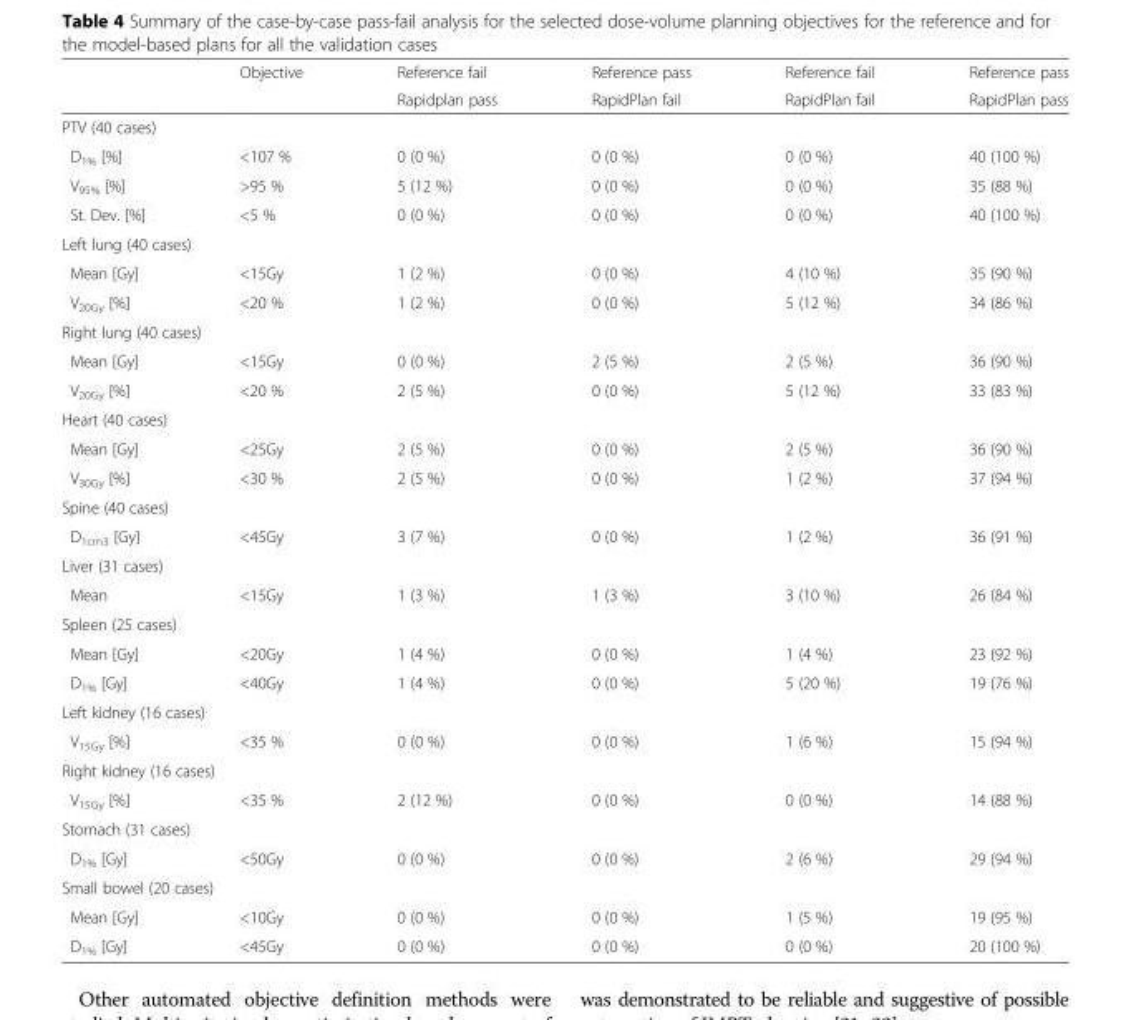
<table><thead><tr><td rowspan="2"></td><td rowspan="2">Objective</td><td rowspan="2">Reference fail Rapidplan pass</td><td rowspan="2">Reference pass RapidPlan fail</td><td rowspan="2">Reference fail RapidPlan fail</td><td rowspan="2">Reference pass RapidPlan pass</td></tr><tr></tr></thead><tbody><tr><td colspan="6">PTV (40 cases)</td></tr><tr><td>D<sub>1%</sub> [%]</td><td>&lt;107 %</td><td>0 (0 %)</td><td>0 (0 %)</td><td>0 (0 %)</td><td>40 (100 %)</td></tr><tr><td>V<sub>95%</sub> [%]</td><td>&gt;95 %</td><td>5 (12 %)</td><td>0 (0 %)</td><td>0 (0 %)</td><td>35 (88 %)</td></tr><tr><td>St. Dev. [%]</td><td>&lt;5 %</td><td>0 (0 %)</td><td>0 (0 %)</td><td>0 (0 %)</td><td>40 (100 %)</td></tr><tr><td colspan="6">Left lung (40 cases)</td></tr><tr><td>Mean [Gy]</td><td>&lt;15Gy</td><td>1 (2 %)</td><td>0 (0 %)</td><td>4 (10 %)</td><td>35 (90 %)</td></tr><tr><td>V<sub>20Gy</sub> [%]</td><td>&lt;20 %</td><td>1 (2 %)</td><td>0 (0 %)</td><td>5 (12 %)</td><td>34 (86 %)</td></tr><tr><td colspan="6">Right lung (40 cases)</td></tr><tr><td>Mean [Gy]</td><td>&lt;15Gy</td><td>0 (0 %)</td><td>2 (5 %)</td><td>2 (5 %)</td><td>36 (90 %)</td></tr><tr><td>V<sub>20Gy</sub> [%]</td><td>&lt;20 %</td><td>2 (5 %)</td><td>0 (0 %)</td><td>5 (12 %)</td><td>33 (83 %)</td></tr><tr><td colspan="6">Heart (40 cases)</td></tr><tr><td>Mean [Gy]</td><td>&lt;25Gy</td><td>2 (5 %)</td><td>0 (0 %)</td><td>2 (5 %)</td><td>36 (90 %)</td></tr><tr><td>V<sub>30Gy</sub> [%]</td><td>&lt;30 %</td><td>2 (5 %)</td><td>0 (0 %)</td><td>1 (2 %)</td><td>37 (94 %)</td></tr><tr><td colspan="6">Spine (40 cases)</td></tr><tr><td>D<sub>1cm3</sub> [Gy]</td><td>&lt;45Gy</td><td>3 (7 %)</td><td>0 (0 %)</td><td>1 (2 %)</td><td>36 (91 %)</td></tr><tr><td colspan="6">Liver (31 cases)</td></tr><tr><td>Mean</td><td>&lt;15Gy</td><td>1 (3 %)</td><td>1 (3 %)</td><td>3 (10 %)</td><td>26 (84 %)</td></tr><tr><td colspan="6">Spleen (25 cases)</td></tr><tr><td>Mean [Gy]</td><td>&lt;20Gy</td><td>1 (4 %)</td><td>0 (0 %)</td><td>1 (4 %)</td><td>23 (92 %)</td></tr><tr><td>D<sub>1%</sub> [Gy]</td><td>&lt;40Gy</td><td>1 (4 %)</td><td>0 (0 %)</td><td>5 (20 %)</td><td>19 (76 %)</td></tr><tr><td colspan="6">Left kidney (16 cases)</td></tr><tr><td>V<sub>15Gy</sub> [%]</td><td>&lt;35 %</td><td>0 (0 %)</td><td>0 (0 %)</td><td>1 (6 %)</td><td>15 (94 %)</td></tr><tr><td colspan="6">Right kidney (16 cases)</td></tr><tr><td>V<sub>15Gy</sub> [%]</td><td>&lt;35 %</td><td>2 (12 %)</td><td>0 (0 %)</td><td>0 (0 %)</td><td>14 (88 %)</td></tr><tr><td colspan="6">Stomach (31 cases)</td></tr><tr><td>D<sub>1%</sub> [Gy]</td><td>&lt;50Gy</td><td>0 (0 %)</td><td>0 (0 %)</td><td>2 (6 %)</td><td>29 (94 %)</td></tr><tr><td colspan="6">Small bowel (20 cases)</td></tr><tr><td>Mean [Gy]</td><td>&lt;10Gy</td><td>0 (0 %)</td><td>0 (0 %)</td><td>1 (5 %)</td><td>19 (95 %)</td></tr><tr><td>D<sub>1%</sub> [Gy]</td><td>&lt;45Gy</td><td>0 (0 %)</td><td>0 (0 %)</td><td>0 (0 %)</td><td>20 (100 %)</td></tr></tbody></table>